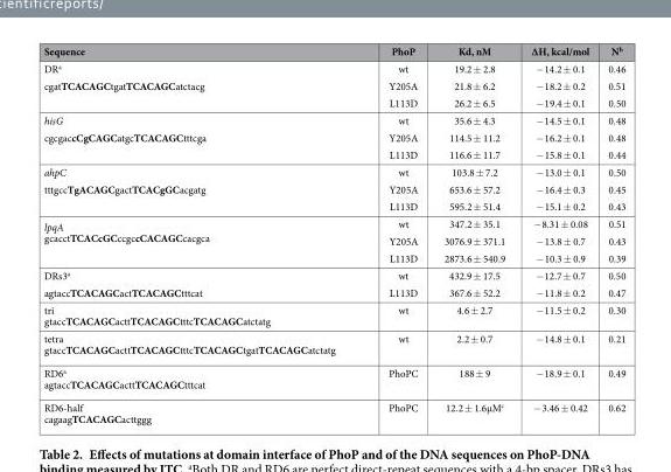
<table><thead><tr><td>Sequence</td><td>PhoP</td><td>Kd, nM</td><td>ΔH, kcal/mol</td><td>N<sup>b</sup></td></tr></thead><tbody><tr><td>DR<sup>a</sup> cgatTCACAGCtgatTCACAGCatctacg</td><td>wt Y205A L113D</td><td>19.2 ± 2.8 21.8 ± 6.2 26.2 ± 6.5</td><td>− 14.2 ± 0.1 − 18.2 ± 0.2 − 19.4 ± 0.1</td><td>0.46 0.51 0.50</td></tr><tr><td>hisG cgcgaccCgCAGCatgcTCACAGCtttcga</td><td>wt Y205A L113D</td><td>35.6 ± 4.3 114.5 ± 11.2 116.6 ± 11.7</td><td>− 14.5 ± 0.1 − 16.2 ± 0.1 − 15.8 ± 0.1</td><td>0.48 0.48 0.44</td></tr><tr><td>ahpC tttgccTgACAGCgactTCACgGCacgatg</td><td>wt Y205A L113D</td><td>103.8 ± 7.2 653.6 ± 57.2 595.2 ± 51.4</td><td>− 13.0 ± 0.1 − 16.4 ± 0.3 − 15.1 ± 0.2</td><td>0.50 0.45 0.43</td></tr><tr><td>lpqA gcacctTCACcGCccgccCACAGCcacgca</td><td>wt Y205A L113D</td><td>347.2 ± 35.1 3076.9 ± 371.1 2873.6 ± 540.9</td><td>− 8.31 ± 0.08 − 13.8 ± 0.7 − 10.3 ± 0.9</td><td>0.51 0.43 0.39</td></tr><tr><td>DRs3<sup>a</sup> agtaccTCACAGCactTCACAGCtttcat</td><td>wt L113D</td><td>432.9 ± 17.5 367.6 ± 52.2</td><td>− 12.7 ± 0.7 − 11.8 ± 0.2</td><td>0.50 0.47</td></tr><tr><td>tri gtaccTCACAGCacttTCACAGCtttcTCACAGCatctatg</td><td>wt</td><td>4.6 ± 2.7</td><td>− 11.5 ± 0.2</td><td>0.30</td></tr><tr><td>tetra gtaccTCACAGCacttTCACAGCtttcTCACAGCtgatTCACAGCatctatg</td><td>wt</td><td>2.2 ± 0.7</td><td>− 14.8 ± 0.1</td><td>0.21</td></tr><tr><td>RD6<sup>a</sup> agtaccTCACAGCacttTCACAGCtttcat</td><td>PhoPC</td><td>188 ± 9</td><td>− 18.9 ± 0.1</td><td>0.49</td></tr><tr><td>RD6-half cagaagTCACAGCacttggg</td><td>PhoPC</td><td>12.2 ± 1.6μM<sup>c</sup></td><td>− 3.46 ± 0.42</td><td>0.62</td></tr></tbody></table>